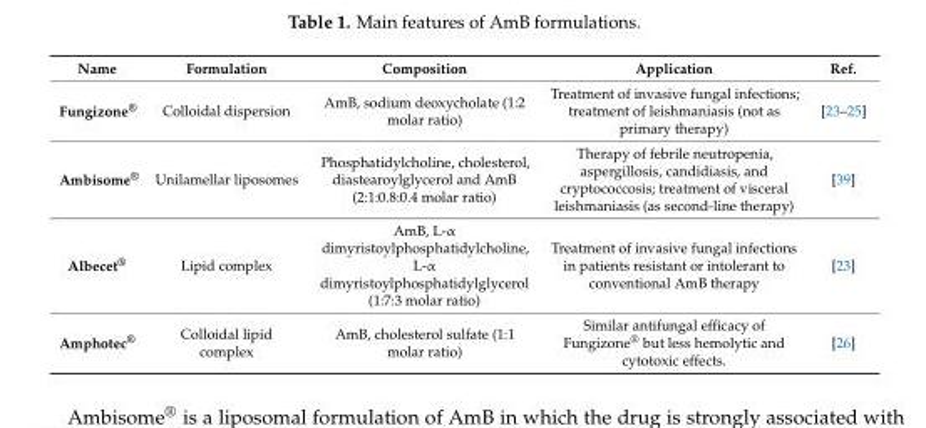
<table><thead><tr><td>Name</td><td>Formulation</td><td>Composition</td><td>Application</td><td>Ref.</td></tr></thead><tbody><tr><td>Fungizone<sup>®</sup></td><td>Colloidal dispersion</td><td>AmB, sodium deoxycholate (1:2 molar ratio)</td><td>Treatment of invasive fungal infections; treatment of leishmaniasis (not as primary therapy)</td><td>[23–25]</td></tr><tr><td>Ambisome<sup>®</sup></td><td>Unilamellar liposomes</td><td>Phosphatidylcholine, cholesterol, diastearoylglycerol and AmB (2:1:0.8:0.4 molar ratio)</td><td>Therapy of febrile neutropenia, aspergillosis, candidiasis, and cryptococcosis; treatment of visceral leishmaniasis (as second-line therapy)</td><td>[39]</td></tr><tr><td>Albecet<sup>®</sup></td><td>Lipid complex</td><td>AmB, L-α dimyristoylphosphatidylcholine, L-α dimyristoylphosphatidylglycerol (1:7:3 molar ratio)</td><td>Treatment of invasive fungal infections in patients resistant or intolerant to conventional AmB therapy</td><td>[23]</td></tr><tr><td>Amphotec<sup>®</sup></td><td>Colloidal lipid complex</td><td>AmB, cholesterol sulfate (1:1 molar ratio)</td><td>Similar antifungal efficacy of Fungizone<sup>®</sup> but less hemolytic and cytotoxic effects.</td><td>[26]</td></tr></tbody></table>